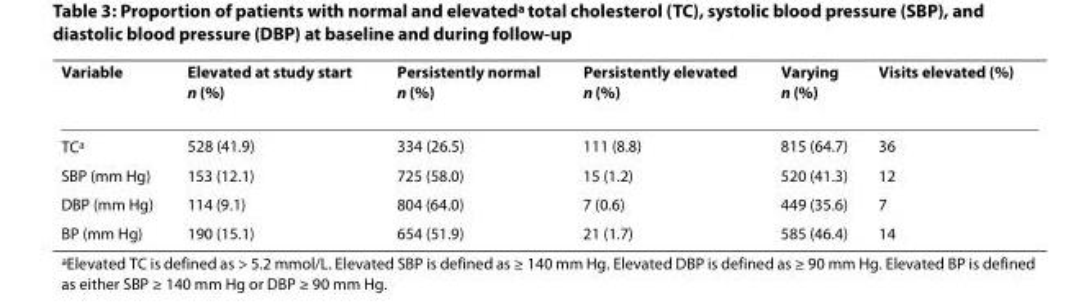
<table><thead><tr><td>Variable</td><td>Elevated at study start n (%)</td><td>Persistently normal n (%)</td><td>Persistently elevated n (%)</td><td>Varying n (%)</td><td>Visits elevated (%)</td></tr></thead><tbody><tr><td>TC<sup>a</sup></td><td>528 (41.9)</td><td>334 (26.5)</td><td>111 (8.8)</td><td>815 (64.7)</td><td>36</td></tr><tr><td>SBP (mm Hg)</td><td>153 (12.1)</td><td>725 (58.0)</td><td>15 (1.2)</td><td>520 (41.3)</td><td>12</td></tr><tr><td>DBP (mm Hg)</td><td>114 (9.1)</td><td>804 (64.0)</td><td>7 (0.6)</td><td>449 (35.6)</td><td>7</td></tr><tr><td>BP (mm Hg)</td><td>190 (15.1)</td><td>654 (51.9)</td><td>21 (1.7)</td><td>585 (46.4)</td><td>14</td></tr></tbody></table>